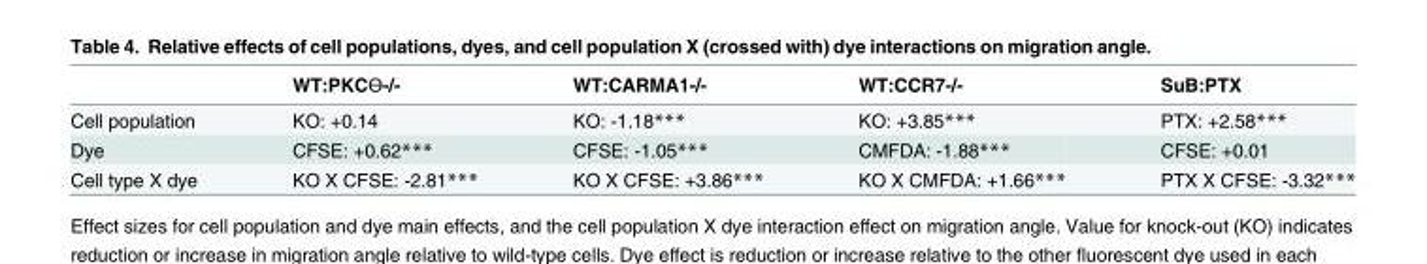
<table><thead><tr><td></td><td>WT:PKCƟ-/-</td><td>WT:CARMA1-/-</td><td>WT:CCR7-/-</td><td>SuB:PTX</td></tr></thead><tbody><tr><td>Cell population</td><td>KO: +0.14</td><td>KO: -1.18***</td><td>KO: +3.85***</td><td>PTX: +2.58***</td></tr><tr><td>Dye</td><td>CFSE: +0.62***</td><td>CFSE: -1.05***</td><td>CMFDA: -1.88***</td><td>CFSE: +0.01</td></tr><tr><td>Cell type X dye</td><td>KO X CFSE: -2.81***</td><td>KO X CFSE: +3.86***</td><td>KO X CMFDA: +1.66***</td><td>PTX X CFSE: -3.32***</td></tr></tbody></table>